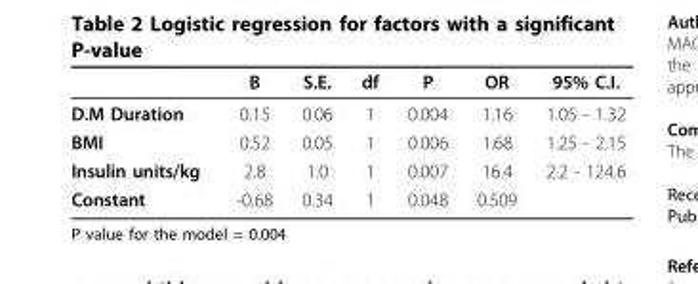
<table><thead><tr><td></td><td>B</td><td>S.E.</td><td>df</td><td>P</td><td>OR</td><td>95% C.I.</td></tr></thead><tbody><tr><td>D.M Duration</td><td>0.15</td><td>0.06</td><td>1</td><td>0.004</td><td>1.16</td><td>1.05 - 1.32</td></tr><tr><td>BMI</td><td>0.52</td><td>0.05</td><td>1</td><td>0.006</td><td>1.68</td><td>1.25 - 2.15</td></tr><tr><td>Insulin units/kg</td><td>2.8</td><td>1.0</td><td>1</td><td>0.007</td><td>16.4</td><td>2.2 - 124.6</td></tr><tr><td>Constant</td><td>-0.68</td><td>0.34</td><td>1</td><td>0.048</td><td>0.509</td><td></td></tr></tbody></table>